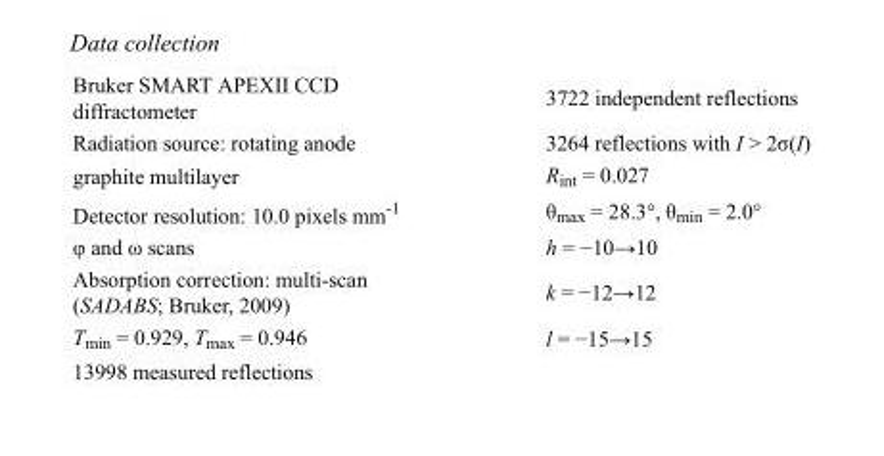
<table><tbody><tr><td>Bruker SMART APEXII CCD diffractometer</td><td>3722 independent reflections</td></tr><tr><td>Radiation source: rotating anode</td><td>3264 reflections with I &gt; 2σ(I)</td></tr><tr><td>graphite multilayer</td><td>R<sub>int</sub> = 0.027</td></tr><tr><td>Detector resolution: 10.0 pixels mm<sup>-1</sup></td><td>θ<sub>max</sub> = 28.3°, θ<sub>min</sub> = 2.0°</td></tr><tr><td>φ and ω scans</td><td>h = −10→10</td></tr><tr><td>Absorption correction: multi-scan (SADABS; Bruker, 2009)</td><td>k = −12→12</td></tr><tr><td>T<sub>min</sub> = 0.929, T<sub>max</sub> = 0.946</td><td>l = −15→15</td></tr><tr><td>13998 measured reflections</td><td></td></tr></tbody></table>